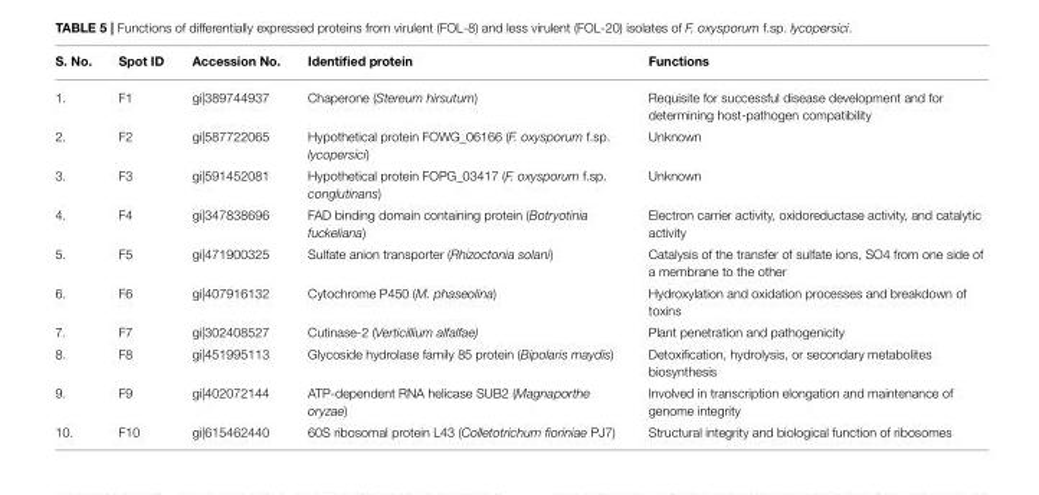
<table><thead><tr><td>S. No.</td><td>Spot ID</td><td>Accession No.</td><td>Identified protein</td><td>Functions</td></tr></thead><tbody><tr><td>1.</td><td>F1</td><td>gi|389744937</td><td>Chaperone (Stereum hirsutum)</td><td>Requisite for successful disease development and for determining host-pathogen compatibility</td></tr><tr><td>2.</td><td>F2</td><td>gi|587722065</td><td>Hypothetical protein FOWG_06166 (F. oxysporum f.sp. lycopersici)</td><td>Unknown</td></tr><tr><td>3.</td><td>F3</td><td>gi|591452081</td><td>Hypothetical protein FOPG_03417 (F. oxysporum f.sp. conglutinans)</td><td>Unknown</td></tr><tr><td>4.</td><td>F4</td><td>gi|347838696</td><td>FAD binding domain containing protein (Botryotinia fuckeliana)</td><td>Electron carrier activity, oxidoreductase activity, and catalytic activity</td></tr><tr><td>5.</td><td>F5</td><td>gi|471900325</td><td>Sulfate anion transporter (Rhizoctonia solani)</td><td>Catalysis of the transfer of sulfate ions, SO4 from one side of a membrane to the other</td></tr><tr><td>6.</td><td>F6</td><td>gi|407916132</td><td>Cytochrome P450 (M. phaseolina)</td><td>Hydroxylation and oxidation processes and breakdown of toxins</td></tr><tr><td>7.</td><td>F7</td><td>gi|302408527</td><td>Cutinase-2 (Verticillium alfalfae)</td><td>Plant penetration and pathogenicity</td></tr><tr><td>8.</td><td>F8</td><td>gi|451995113</td><td>Glycoside hydrolase family 85 protein (Bipolaris maydis)</td><td>Detoxification, hydrolysis, or secondary metabolites biosynthesis</td></tr><tr><td>9.</td><td>F9</td><td>gi|402072144</td><td>ATP-dependent RNA helicase SUB2 (Magnaporthe oryzae)</td><td>Involved in transcription elongation and maintenance of genome integrity</td></tr><tr><td>10.</td><td>F10</td><td>gi|615462440</td><td>60S ribosomal protein L43 (Colletotrichum fioriniae PJ7)</td><td>Structural integrity and biological function of ribosomes</td></tr></tbody></table>